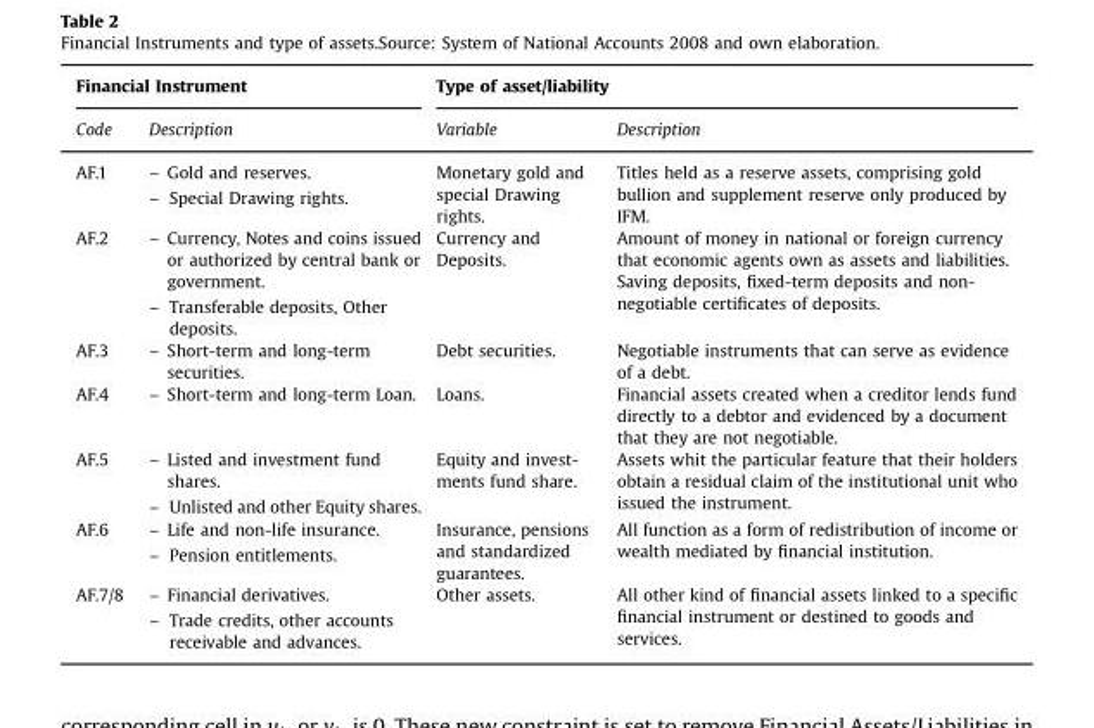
<table><thead><tr><td colspan="2">Financial Instrument</td><td colspan="2">Type of asset/liability</td></tr><tr><td>Code</td><td>Description</td><td>Variable</td><td>Description</td></tr></thead><tbody><tr><td>AF.1</td><td>– Gold and reserves. – Special Drawing rights.</td><td>Monetary gold and special Drawing rights.</td><td>Titles held as a reserve assets, comprising gold bullion and supplement reserve only produced by IFM.</td></tr><tr><td>AF.2</td><td>– Currency, Notes and coins issued or authorized by central bank or government. – Transferable deposits, Other deposits.</td><td>Currency and Deposits.</td><td>Amount of money in national or foreign currency that economic agents own as assets and liabilities. Saving deposits, fixed-term deposits and non- negotiable certificates of deposits.</td></tr><tr><td>AF.3</td><td>– Short-term and long-term securities.</td><td>Debt securities.</td><td>Negotiable instruments that can serve as evidence of a debt.</td></tr><tr><td>AF.4</td><td>– Short-term and long-term Loan.</td><td>Loans.</td><td>Financial assets created when a creditor lends fund directly to a debtor and evidenced by a document that they are not negotiable.</td></tr><tr><td>AF.5</td><td>– Listed and investment fund shares. – Unlisted and other Equity shares.</td><td>Equity and invest- ments fund share.</td><td>Assets whit the particular feature that their holders obtain a residual claim of the institutional unit who issued the instrument.</td></tr><tr><td>AF.6</td><td>– Life and non-life insurance. – Pension entitlements.</td><td>Insurance, pensions and standardized guarantees.</td><td>All function as a form of redistribution of income or wealth mediated by financial institution.</td></tr><tr><td>AF.7/8</td><td>– Financial derivatives. – Trade credits, other accounts receivable and advances.</td><td>Other assets.</td><td>All other kind of financial assets linked to a specific financial instrument or destined to goods and services.</td></tr></tbody></table>